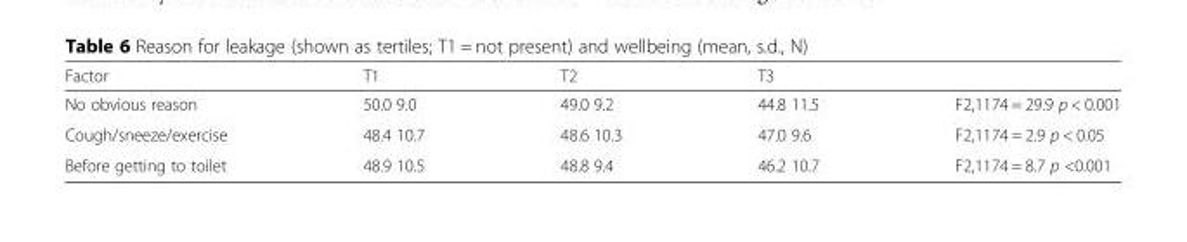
<table><thead><tr><td>Factor</td><td>T1</td><td>T2</td><td>T3</td><td></td></tr></thead><tbody><tr><td>No obvious reason</td><td>50.0 9.0</td><td>49.0 9.2</td><td>44.8 11.5</td><td>F2,1174 = 29.9 p &lt; 0.001</td></tr><tr><td>Cough/sneeze/exercise</td><td>48.4 10.7</td><td>48.6 10.3</td><td>47.0 9.6</td><td>F2,1174 = 2.9 p &lt; 0.05</td></tr><tr><td>Before getting to toilet</td><td>48.9 10.5</td><td>48.8 9.4</td><td>46.2 10.7</td><td>F2,1174 = 8.7 p &lt;0.001</td></tr></tbody></table>